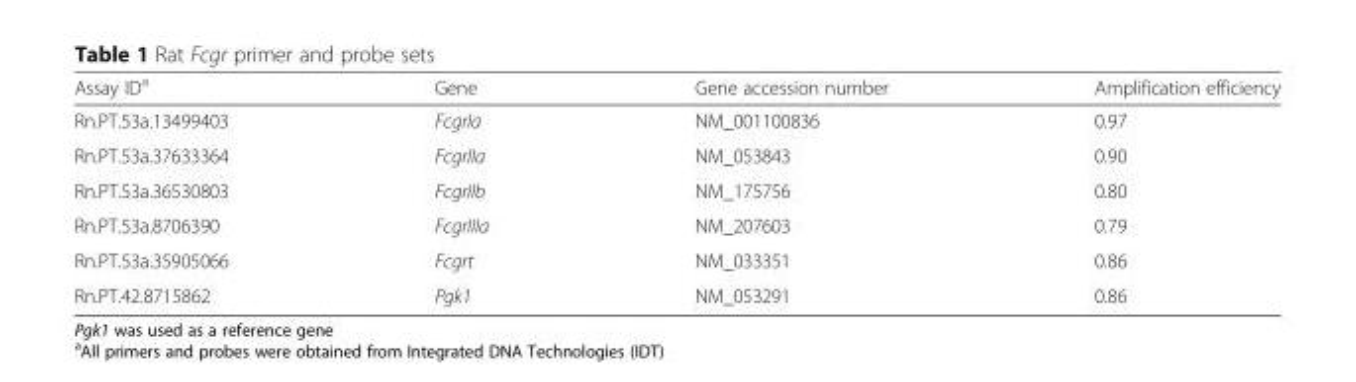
<table><thead><tr><td>Assay ID<sup>a</sup></td><td>Gene</td><td>Gene accession number</td><td>Amplification efficiency</td></tr></thead><tbody><tr><td>Rn.PT.53a.13499403</td><td>FcgrIa</td><td>NM_001100836</td><td>0.97</td></tr><tr><td>Rn.PT.53a.37633364</td><td>FcgrIIa</td><td>NM_053843</td><td>0.90</td></tr><tr><td>Rn.PT.53a.36530803</td><td>FcgrIIb</td><td>NM_175756</td><td>0.80</td></tr><tr><td>Rn.PT.53a.8706390</td><td>FcgrIIIa</td><td>NM_207603</td><td>0.79</td></tr><tr><td>Rn.PT.53a.35905066</td><td>Fcgrt</td><td>NM_033351</td><td>0.86</td></tr><tr><td>Rn.PT.42.8715862</td><td>Pgk1</td><td>NM_053291</td><td>0.86</td></tr></tbody></table>